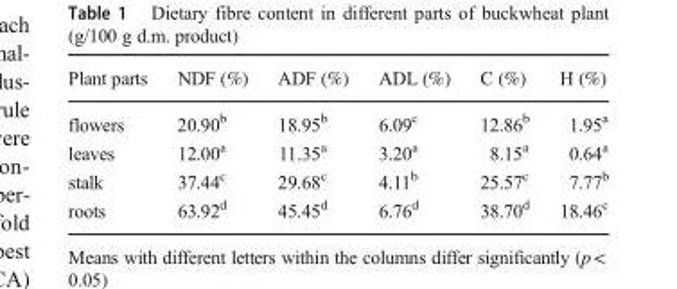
<table><thead><tr><td>Plant parts</td><td>NDF (%)</td><td>ADF (%)</td><td>ADL (%)</td><td>C (%)</td><td>H (%)</td></tr></thead><tbody><tr><td>flowers</td><td>20.90<sup>b</sup></td><td>18.95<sup>b</sup></td><td>6.09<sup>c</sup></td><td>12.86<sup>b</sup></td><td>1.95<sup>a</sup></td></tr><tr><td>leaves</td><td>12.00<sup>a</sup></td><td>11.35<sup>a</sup></td><td>3.20<sup>a</sup></td><td>8.15<sup>a</sup></td><td>0.64<sup>a</sup></td></tr><tr><td>stalk</td><td>37.44<sup>c</sup></td><td>29.68<sup>c</sup></td><td>4.11<sup>b</sup></td><td>25.57<sup>c</sup></td><td>7.77<sup>b</sup></td></tr><tr><td>roots</td><td>63.92<sup>d</sup></td><td>45.45<sup>d</sup></td><td>6.76<sup>d</sup></td><td>38.70<sup>d</sup></td><td>18.46<sup>c</sup></td></tr></tbody></table>